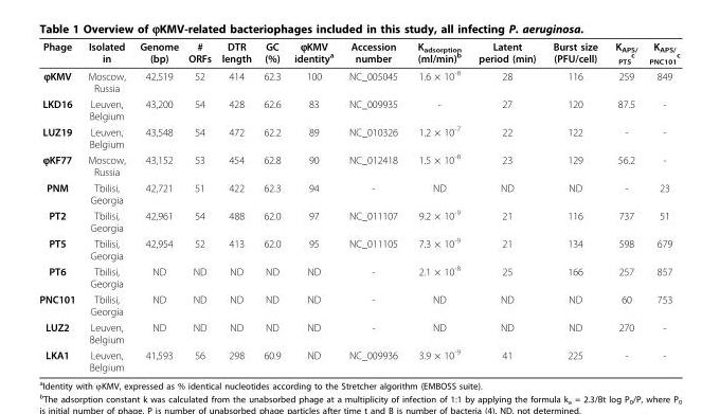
<table><thead><tr><td>Phage</td><td>Isolated in</td><td>Genome (bp)</td><td># ORFs</td><td>DTR length</td><td>GC (%)</td><td>ϕKMV identity<sup>a</sup></td><td>Accession number</td><td>K<sub>adsorption</sub> (ml/min)<sup>b</sup></td><td>Latent period (min)</td><td>Burst size (PFU/cell)</td><td>K<sub>APS/ PT5</sub> <sup>c</sup></td><td>K<sub>APS/ PNC101</sub> <sup>c</sup></td></tr></thead><tbody><tr><td>ϕKMV</td><td>Moscow, Russia</td><td>42,519</td><td>52</td><td>414</td><td>62.3</td><td>100</td><td>NC_005045</td><td>1.6 × 10<sup>-8</sup></td><td>28</td><td>116</td><td>259</td><td>849</td></tr><tr><td>LKD16</td><td>Leuven, Belgium</td><td>43,200</td><td>54</td><td>428</td><td>62.6</td><td>83</td><td>NC_009935</td><td>-</td><td>27</td><td>120</td><td>87.5</td><td>-</td></tr><tr><td>LUZ19</td><td>Leuven, Belgium</td><td>43,548</td><td>54</td><td>472</td><td>62.2</td><td>89</td><td>NC_010326</td><td>1.2 × 10<sup>-7</sup></td><td>22</td><td>122</td><td>-</td><td>-</td></tr><tr><td>ϕKF77</td><td>Moscow, Russia</td><td>43,152</td><td>53</td><td>454</td><td>62.8</td><td>90</td><td>NC_012418</td><td>1.5 × 10<sup>-8</sup></td><td>23</td><td>129</td><td>56.2</td><td>-</td></tr><tr><td>PNM</td><td>Tbilisi, Georgia</td><td>42,721</td><td>51</td><td>422</td><td>62.3</td><td>94</td><td>-</td><td>ND</td><td>ND</td><td>ND</td><td>-</td><td>23</td></tr><tr><td>PT2</td><td>Tbilisi, Georgia</td><td>42,961</td><td>54</td><td>488</td><td>62.0</td><td>97</td><td>NC_011107</td><td>9.2 × 10<sup>-9</sup></td><td>21</td><td>116</td><td>737</td><td>51</td></tr><tr><td>PT5</td><td>Tbilisi, Georgia</td><td>42,954</td><td>52</td><td>413</td><td>62.0</td><td>95</td><td>NC_011105</td><td>7.3 × 10<sup>-9</sup></td><td>21</td><td>134</td><td>598</td><td>679</td></tr><tr><td>PT6</td><td>Tbilisi, Georgia</td><td>ND</td><td>ND</td><td>ND</td><td>ND</td><td>ND</td><td>-</td><td>2.1 × 10<sup>-8</sup></td><td>25</td><td>166</td><td>257</td><td>857</td></tr><tr><td>PNC101</td><td>Tbilisi, Georgia</td><td>ND</td><td>ND</td><td>ND</td><td>ND</td><td>ND</td><td>-</td><td>ND</td><td>ND</td><td>ND</td><td>60</td><td>753</td></tr><tr><td>LUZ2</td><td>Leuven, Belgium</td><td>ND</td><td>ND</td><td>ND</td><td>ND</td><td>ND</td><td>-</td><td>ND</td><td>ND</td><td>ND</td><td>270</td><td>-</td></tr><tr><td>LKA1</td><td>Leuven, Belgium</td><td>41,593</td><td>56</td><td>298</td><td>60.9</td><td>ND</td><td>NC_009936</td><td>3.9 × 10<sup>-9</sup></td><td>41</td><td>225</td><td>-</td><td>-</td></tr></tbody></table>